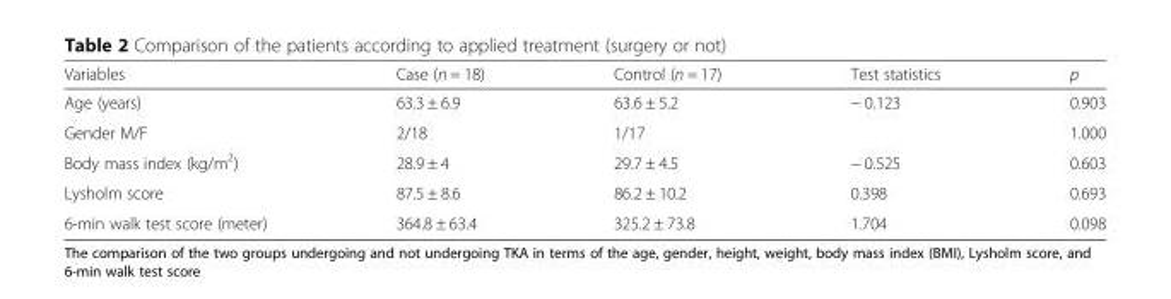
<table><thead><tr><td>Variables</td><td>Case (n = 18)</td><td>Control (n = 17)</td><td>Test statistics</td><td>p</td></tr></thead><tbody><tr><td>Age (years)</td><td>63.3 ± 6.9</td><td>63.6 ± 5.2</td><td>− 0.123</td><td>0.903</td></tr><tr><td>Gender M/F</td><td>2/18</td><td>1/17</td><td></td><td>1.000</td></tr><tr><td>Body mass index (kg/m<sup>2</sup>)</td><td>28.9 ± 4</td><td>29.7 ± 4.5</td><td>− 0.525</td><td>0.603</td></tr><tr><td>Lysholm score</td><td>87.5 ± 8.6</td><td>86.2 ± 10.2</td><td>0.398</td><td>0.693</td></tr><tr><td>6-min walk test score (meter)</td><td>364.8 ± 63.4</td><td>325.2 ± 73.8</td><td>1.704</td><td>0.098</td></tr></tbody></table>